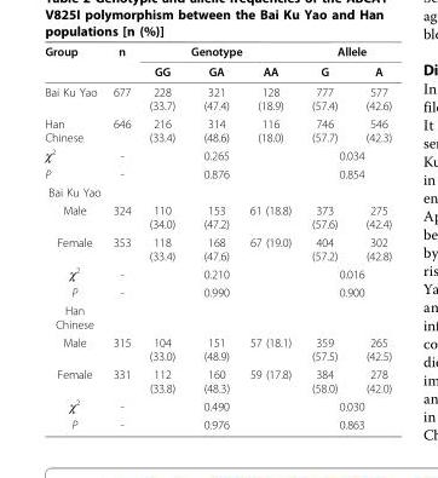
<table><thead><tr><td rowspan="2">Group</td><td rowspan="2">n</td><td colspan="3">Genotype</td><td colspan="2">Allele</td></tr><tr><td>GG</td><td>GA</td><td>AA</td><td>G</td><td>A</td></tr></thead><tbody><tr><td>Bai Ku Yao</td><td>677</td><td>228 (33.7)</td><td>321 (47.4)</td><td>128 (18.9)</td><td>777 (57.4)</td><td>577 (42.6)</td></tr><tr><td>Han Chinese</td><td>646</td><td>216 (33.4)</td><td>314 (48.6)</td><td>116 (18.0)</td><td>746 (57.7)</td><td>546 (42.3)</td></tr><tr><td>χ<sup>2</sup></td><td>-</td><td></td><td>0.265</td><td></td><td colspan="2">0.034</td></tr><tr><td>P</td><td>-</td><td></td><td>0.876</td><td></td><td colspan="2">0.854</td></tr><tr><td colspan="7">Bai Ku Yao</td></tr><tr><td>Male</td><td>324</td><td>110 (34.0)</td><td>153 (47.2)</td><td>61 (18.8)</td><td>373 (57.6)</td><td>275 (42.4)</td></tr><tr><td>Female</td><td>353</td><td>118 (33.4)</td><td>168 (47.6)</td><td>67 (19.0)</td><td>404 (57.2)</td><td>302 (42.8)</td></tr><tr><td>χ<sup>2</sup></td><td>-</td><td></td><td>0.210</td><td></td><td colspan="2">0.016</td></tr><tr><td>P</td><td>-</td><td></td><td>0.990</td><td></td><td colspan="2">0.900</td></tr><tr><td colspan="7">Han Chinese</td></tr><tr><td>Male</td><td>315</td><td>104 (33.0)</td><td>151 (48.9)</td><td>57 (18.1)</td><td>359 (57.5)</td><td>265 (42.5)</td></tr><tr><td>Female</td><td>331</td><td>112 (33.8)</td><td>160 (48.3)</td><td>59 (17.8)</td><td>384 (58.0)</td><td>278 (42.0)</td></tr><tr><td>χ<sup>2</sup></td><td>-</td><td colspan="3">0.490</td><td colspan="2">0.030</td></tr><tr><td>P</td><td>-</td><td colspan="3">0.976</td><td colspan="2">0.863</td></tr></tbody></table>